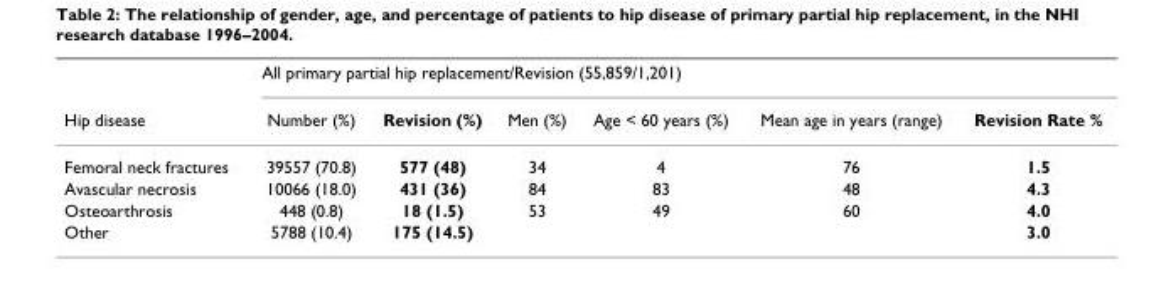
<table><thead><tr><td rowspan="2">Hip disease</td><td colspan="6">All primary partial hip replacement/Revision (55,859/1,201)</td></tr><tr><td>Number (%)</td><td>Revision (%)</td><td>Men (%)</td><td>Age &lt; 60 years (%)</td><td>Mean age in years (range)</td><td>Revision Rate %</td></tr></thead><tbody><tr><td>Femoral neck fractures</td><td>39557 (70.8)</td><td>577 (48)</td><td>34</td><td>4</td><td>76</td><td>1.5</td></tr><tr><td>Avascular necrosis</td><td>10066 (18.0)</td><td>431 (36)</td><td>84</td><td>83</td><td>48</td><td>4.3</td></tr><tr><td>Osteoarthrosis</td><td>448 (0.8)</td><td>18 (1.5)</td><td>53</td><td>49</td><td>60</td><td>4.0</td></tr><tr><td>Other</td><td>5788 (10.4)</td><td>175 (14.5)</td><td></td><td></td><td></td><td>3.0</td></tr></tbody></table>